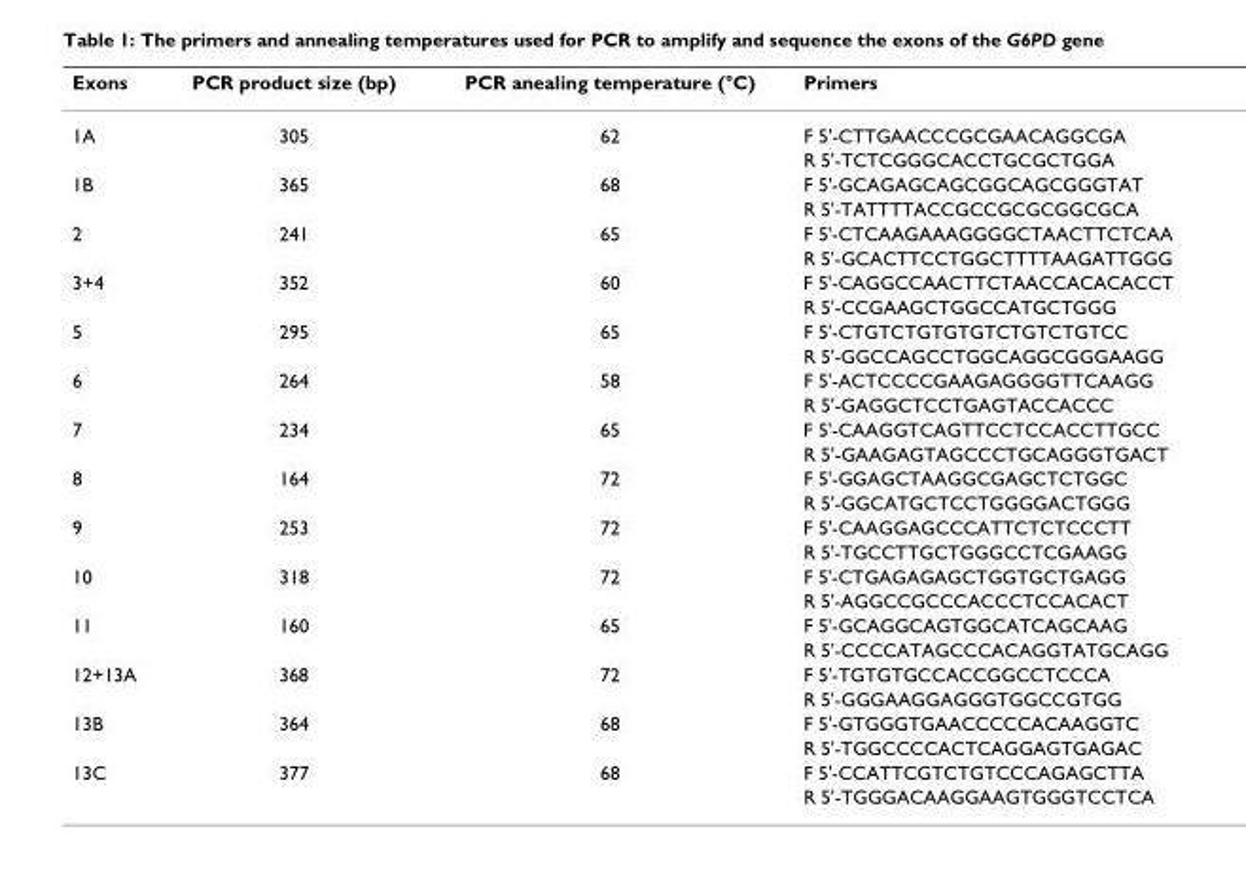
<table><thead><tr><td>Exons</td><td>PCR product size (bp)</td><td>PCR anealing temperature (°C)</td><td>Primers</td></tr></thead><tbody><tr><td rowspan="2">1A</td><td>305</td><td>62</td><td>F 5&#x27;-CTTGAACCCGCGAACAGGCGA</td></tr><tr><td></td><td></td><td>R 5&#x27;-TCTCGGGCACCTGCGCTGGA</td></tr><tr><td rowspan="2">1B</td><td>365</td><td>68</td><td>F 5&#x27;-GCAGAGCAGCGGCAGCGGGTAT</td></tr><tr><td></td><td></td><td>R 5&#x27;-TATTTTACCGCCGCGCGGCGCA</td></tr><tr><td rowspan="2">2</td><td>241</td><td>65</td><td>F 5&#x27;-CTCAAGAAAGGGGCTAACTTCTCAA</td></tr><tr><td></td><td></td><td>R 5&#x27;-GCACTTCCTGGCTTTTAAGATTGGG</td></tr><tr><td rowspan="2">3+4</td><td>352</td><td>60</td><td>F 5&#x27;-CAGGCCAACTTCTAACCACACACCT</td></tr><tr><td></td><td></td><td>R 5&#x27;-CCGAAGCTGGCCATGCTGGG</td></tr><tr><td rowspan="2">5</td><td>295</td><td>65</td><td>F 5&#x27;-CTGTCTGTGTGTCTGTCTGTCC</td></tr><tr><td></td><td></td><td>R 5&#x27;-GGCCAGCCTGGCAGGCGGGAAGG</td></tr><tr><td rowspan="2">6</td><td>264</td><td>58</td><td>F 5&#x27;-ACTCCCCGAAGAGGGGTTCAAGG</td></tr><tr><td></td><td></td><td>R 5&#x27;-GAGGCTCCTGAGTACCACCC</td></tr><tr><td rowspan="2">7</td><td>234</td><td>65</td><td>F 5&#x27;-CAAGGTCAGTTCCTCCACCTTGCC</td></tr><tr><td></td><td></td><td>R 5&#x27;-GAAGAGTAGCCCTGCAGGGTGACT</td></tr><tr><td rowspan="2">8</td><td>164</td><td>72</td><td>F 5&#x27;-GGAGCTAAGGCGAGCTCTGGC</td></tr><tr><td></td><td></td><td>R 5&#x27;-GGCATGCTCCTGGGGACTGGG</td></tr><tr><td rowspan="2">9</td><td>253</td><td>72</td><td>F 5&#x27;-CAAGGAGCCCATTCTCTCCCTT</td></tr><tr><td></td><td></td><td>R 5&#x27;-TGCCTTGCTGGGCCTCGAAGG</td></tr><tr><td rowspan="2">10</td><td>318</td><td>72</td><td>F 5&#x27;-CTGAGAGAGCTGGTGCTGAGG</td></tr><tr><td></td><td></td><td>R 5&#x27;-AGGCCGCCCACCCTCCACACT</td></tr><tr><td rowspan="2">11</td><td>160</td><td>65</td><td>F 5&#x27;-GCAGGCAGTGGCATCAGCAAG</td></tr><tr><td></td><td></td><td>R 5&#x27;-CCCCATAGCCCACAGGTATGCAGG</td></tr><tr><td rowspan="2">12+13A</td><td>368</td><td>72</td><td>F 5&#x27;-TGTGTGCCACCGGCCTCCCA</td></tr><tr><td></td><td></td><td>R 5&#x27;-GGGAAGGAGGGTGGCCGTGG</td></tr><tr><td rowspan="2">13B</td><td>364</td><td>68</td><td>F 5&#x27;-GTGGGTGAACCCCCACAAGGTC</td></tr><tr><td></td><td></td><td>R 5&#x27;-TGGCCCCACTCAGGAGTGAGAC</td></tr><tr><td rowspan="2">13C</td><td>377</td><td>68</td><td>F 5&#x27;-CCATTCGTCTGTCCCAGAGCTTA</td></tr><tr><td></td><td></td><td>R 5&#x27;-TGGGACAAGGAAGTGGGTCCTCA</td></tr></tbody></table>